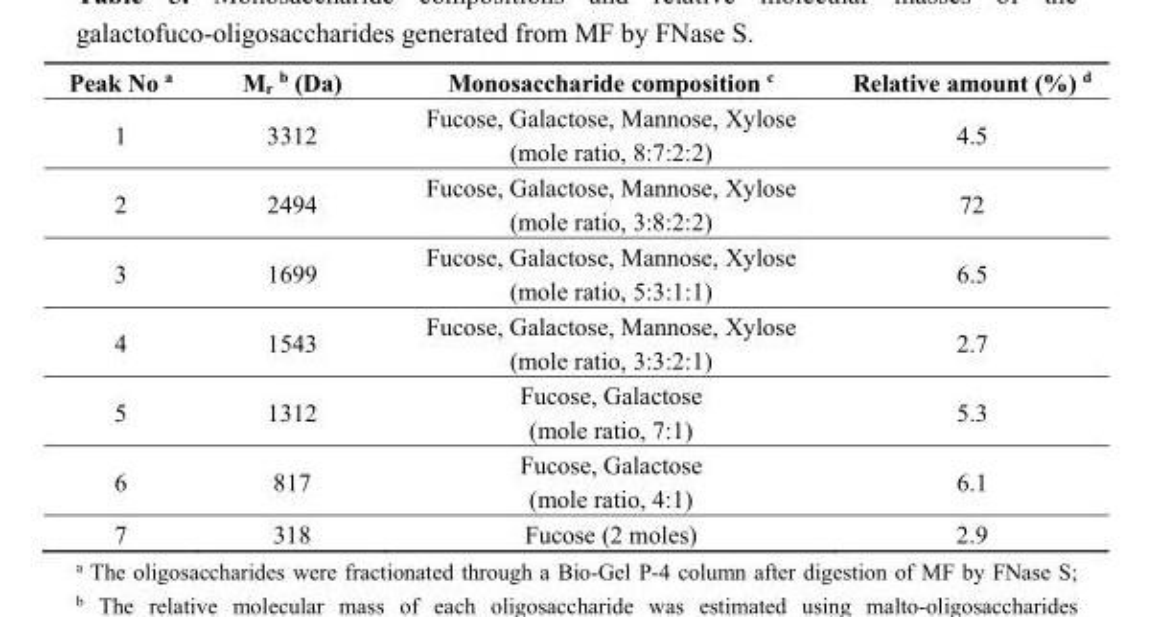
<table><thead><tr><td>Peak No <sup>a</sup></td><td>M<sub>r</sub> <sup>b</sup> (Da)</td><td>Monosaccharide composition <sup>c</sup></td><td>Relative amount (%) <sup>d</sup></td></tr></thead><tbody><tr><td>1</td><td>3312</td><td>Fucose, Galactose, Mannose, Xylose (mole ratio, 8:7:2:2)</td><td>4.5</td></tr><tr><td>2</td><td>2494</td><td>Fucose, Galactose, Mannose, Xylose (mole ratio, 3:8:2:2)</td><td>72</td></tr><tr><td>3</td><td>1699</td><td>Fucose, Galactose, Mannose, Xylose (mole ratio, 5:3:1:1)</td><td>6.5</td></tr><tr><td>4</td><td>1543</td><td>Fucose, Galactose, Mannose, Xylose (mole ratio, 3:3:2:1)</td><td>2.7</td></tr><tr><td>5</td><td>1312</td><td>Fucose, Galactose (mole ratio, 7:1)</td><td>5.3</td></tr><tr><td>6</td><td>817</td><td>Fucose, Galactose (mole ratio, 4:1)</td><td>6.1</td></tr><tr><td>7</td><td>318</td><td>Fucose (2 moles)</td><td>2.9</td></tr></tbody></table>